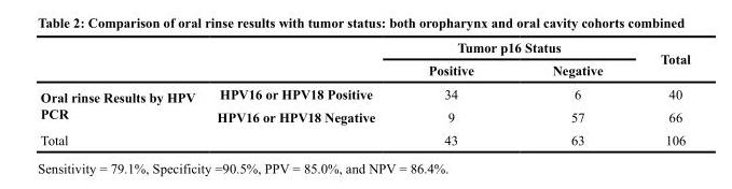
<table><thead><tr><td rowspan="2"></td><td rowspan="2"></td><td colspan="2">Tumor p16 Status</td><td rowspan="2">Total</td></tr><tr><td>Positive</td><td>Negative</td></tr></thead><tbody><tr><td rowspan="2">Oral rinse Results by HPV PCR</td><td>HPV16 or HPV18 Positive</td><td>34</td><td>6</td><td>40</td></tr><tr><td>HPV16 or HPV18 Negative</td><td>9</td><td>57</td><td>66</td></tr><tr><td>Total</td><td></td><td>43</td><td>63</td><td>106</td></tr></tbody></table>